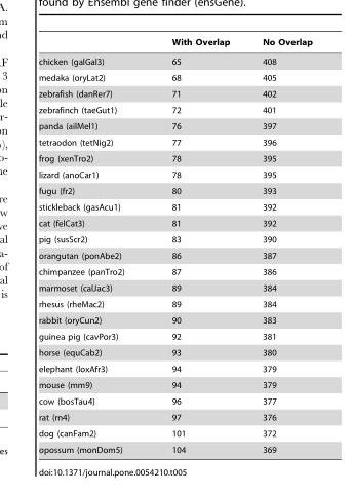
<table><thead><tr><td></td><td>With Overlap</td><td>No Overlap</td></tr></thead><tbody><tr><td>chicken (galGal3)</td><td>65</td><td>408</td></tr><tr><td>medaka (oryLat2)</td><td>68</td><td>405</td></tr><tr><td>zebrafish (danRer7)</td><td>71</td><td>402</td></tr><tr><td>zebrafinch (taeGut1)</td><td>72</td><td>401</td></tr><tr><td>panda (ailMel1)</td><td>76</td><td>397</td></tr><tr><td>tetraodon (tetNig2)</td><td>77</td><td>396</td></tr><tr><td>frog (xenTro2)</td><td>78</td><td>395</td></tr><tr><td>lizard (anoCar1)</td><td>78</td><td>395</td></tr><tr><td>fugu (fr2)</td><td>80</td><td>393</td></tr><tr><td>stickleback (gasAcu1)</td><td>81</td><td>392</td></tr><tr><td>cat (felCat3)</td><td>81</td><td>392</td></tr><tr><td>pig (susScr2)</td><td>83</td><td>390</td></tr><tr><td>orangutan (ponAbe2)</td><td>86</td><td>387</td></tr><tr><td>chimpanzee (panTro2)</td><td>87</td><td>386</td></tr><tr><td>marmoset (calJac3)</td><td>89</td><td>384</td></tr><tr><td>rhesus (rheMac2)</td><td>89</td><td>384</td></tr><tr><td>rabbit (oryCun2)</td><td>90</td><td>383</td></tr><tr><td>guinea pig (cavPor3)</td><td>92</td><td>381</td></tr><tr><td>horse (equCab2)</td><td>93</td><td>380</td></tr><tr><td>elephant (loxAfr3)</td><td>94</td><td>379</td></tr><tr><td>mouse (mm9)</td><td>94</td><td>379</td></tr><tr><td>cow (bosTau4)</td><td>96</td><td>377</td></tr><tr><td>rat (rn4)</td><td>97</td><td>376</td></tr><tr><td>dog (canFam2)</td><td>101</td><td>372</td></tr><tr><td>opossum (monDom5)</td><td>104</td><td>369</td></tr></tbody></table>